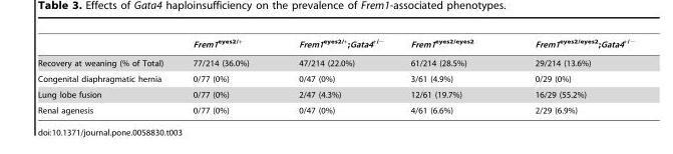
<table><thead><tr><td></td><td>Frem1<sup>eyes2/+</sup></td><td>Frem1<sup>eyes2/+</sup>;Gata4<sup>+/−</sup></td><td>Frem1<sup>eyes2/eyes2</sup></td><td>Frem1<sup>eyes2/eyes2</sup>;Gata4<sup>+/−</sup></td></tr></thead><tbody><tr><td>Recovery at weaning (% of Total)</td><td>77/214 (36.0%)</td><td>47/214 (22.0%)</td><td>61/214 (28.5%)</td><td>29/214 (13.6%)</td></tr><tr><td>Congenital diaphragmatic hernia</td><td>0/77 (0%)</td><td>0/47 (0%)</td><td>3/61 (4.9%)</td><td>0/29 (0%)</td></tr><tr><td>Lung lobe fusion</td><td>0/77 (0%)</td><td>2/47 (4.3%)</td><td>12/61 (19.7%)</td><td>16/29 (55.2%)</td></tr><tr><td>Renal agenesis</td><td>0/77 (0%)</td><td>0/47 (0%)</td><td>4/61 (6.6%)</td><td>2/29 (6.9%)</td></tr></tbody></table>